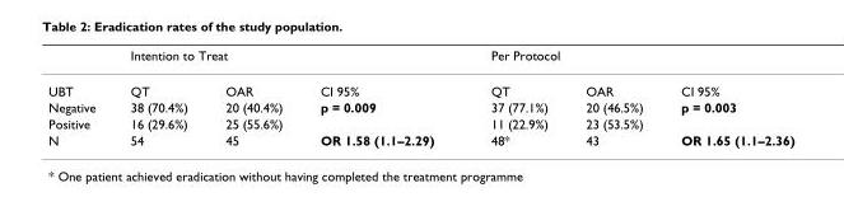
<table><thead><tr><td rowspan="2">UBT</td><td colspan="2">Intention to Treat</td><td rowspan="2">CI 95%</td><td colspan="2">Per Protocol</td><td rowspan="2">CI 95%</td></tr><tr><td>QT</td><td>OAR</td><td>QT</td><td>OAR</td></tr></thead><tbody><tr><td>Negative</td><td>38 (70.4%)</td><td>20 (40.4%)</td><td>p = 0.009</td><td>37 (77.1%)</td><td>20 (46.5%)</td><td>p = 0.003</td></tr><tr><td>Positive</td><td>16 (29.6%)</td><td>25 (55.6%)</td><td></td><td>11 (22.9%)</td><td>23 (53.5%)</td><td></td></tr><tr><td>N</td><td>54</td><td>45</td><td>OR 1.58 (1.1–2.29)</td><td>48*</td><td>43</td><td>OR 1.65 (1.1–2.36)</td></tr></tbody></table>